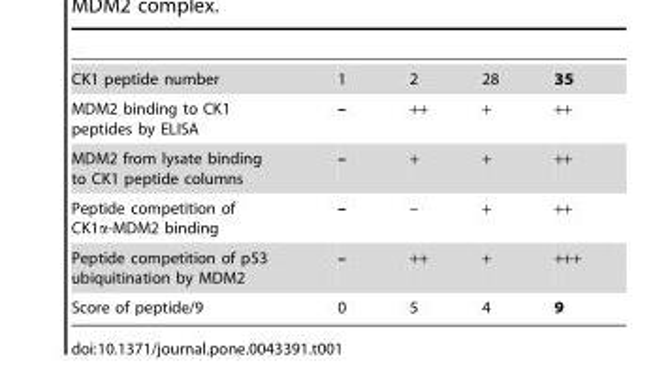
<table><tbody><tr><td>CK1 peptide number</td><td>1</td><td>2</td><td>28</td><td>35</td></tr><tr><td>MDM2 binding to CK1 peptides by ELISA</td><td>–</td><td>++</td><td>+</td><td>++</td></tr><tr><td>MDM2 from lysate binding to CK1 peptide columns</td><td>–</td><td>+</td><td>+</td><td>++</td></tr><tr><td>Peptide competition of CK1α-MDM2 binding</td><td>–</td><td>–</td><td>+</td><td>++</td></tr><tr><td>Peptide competition of p53 ubiquitination by MDM2</td><td>–</td><td>++</td><td>+</td><td>+++</td></tr><tr><td>Score of peptide/9</td><td>0</td><td>5</td><td>4</td><td>9</td></tr></tbody></table>